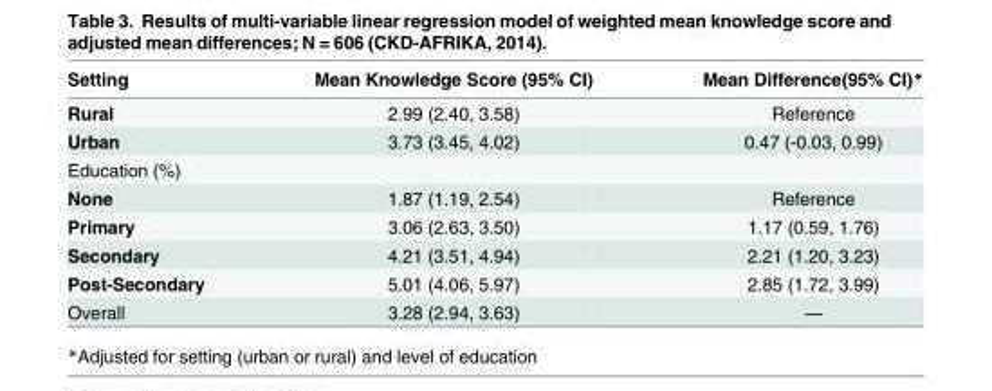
<table><thead><tr><td>Setting</td><td>Mean Knowledge Score (95% CI)</td><td>Mean Difference(95% CI)*</td></tr></thead><tbody><tr><td>Rural</td><td>2.99 (2.40, 3.58)</td><td>Reference</td></tr><tr><td>Urban</td><td>3.73 (3.45, 4.02)</td><td>0.47 (-0.03, 0.99)</td></tr><tr><td colspan="3">Education (%)</td></tr><tr><td>None</td><td>1.87 (1.19, 2.54)</td><td>Reference</td></tr><tr><td>Primary</td><td>3.06 (2.63, 3.50)</td><td>1.17 (0.59, 1.76)</td></tr><tr><td>Secondary</td><td>4.21 (3.51, 4.94)</td><td>2.21 (1.20, 3.23)</td></tr><tr><td>Post-Secondary</td><td>5.01 (4.06, 5.97)</td><td>2.85 (1.72, 3.99)</td></tr><tr><td>Overall</td><td>3.28 (2.94, 3.63)</td><td>—</td></tr></tbody></table>